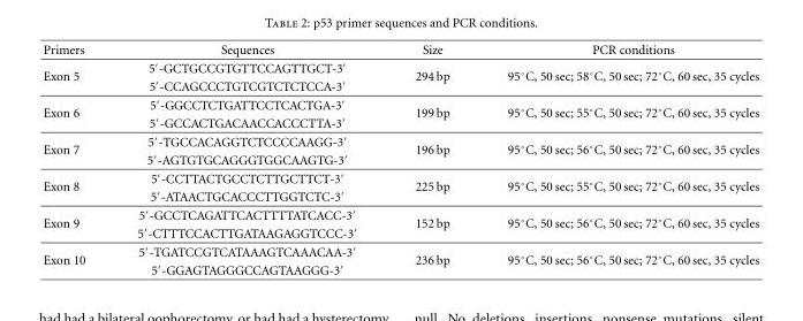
<table><thead><tr><td>Primers</td><td>Sequences</td><td>Size</td><td>PCR conditions</td></tr></thead><tbody><tr><td rowspan="2">Exon 5</td><td>5′-GCTGCCGTGTTCCAGTTGCT-3′</td><td rowspan="2">294 bp</td><td rowspan="2">95◦C, 50 sec; 58◦C, 50 sec; 72◦C, 60 sec, 35 cycles</td></tr><tr><td>5′-CCAGCCCTGTCGTCTCTCCA-3′</td></tr><tr><td rowspan="2">Exon 6</td><td>5′-GGCCTCTGATTCCTCACTGA-3′</td><td rowspan="2">199 bp</td><td rowspan="2">95◦C, 50 sec; 55◦C, 50 sec; 72◦C, 60 sec, 35 cycles</td></tr><tr><td>5′-GCCACTGACAACCACCCTTA-3′</td></tr><tr><td rowspan="2">Exon 7</td><td>5′-TGCCACAGGTCTCCCCAAGG-3′</td><td rowspan="2">196 bp</td><td rowspan="2">95◦C, 50 sec; 56◦C, 50 sec; 72◦C, 60 sec, 35 cycles</td></tr><tr><td>5′-AGTGTGCAGGGTGGCAAGTG-3′</td></tr><tr><td rowspan="2">Exon 8</td><td>5′-CCTTACTGCCTCTTGCTTCT-3′</td><td rowspan="2">225 bp</td><td rowspan="2">95◦C, 50 sec; 55◦C, 50 sec; 72◦C, 60 sec, 35 cycles</td></tr><tr><td>5′-ATAACTGCACCCTTGGTCTC-3′</td></tr><tr><td rowspan="2">Exon 9</td><td>5′-GCCTCAGATTCACTTTTATCACC-3′</td><td rowspan="2">152 bp</td><td rowspan="2">95◦C, 50 sec; 56◦C, 50 sec; 72◦C, 60 sec, 35 cycles</td></tr><tr><td>5′-CTTTCCACTTGATAAGAGGTCCC-3′</td></tr><tr><td rowspan="2">Exon 10</td><td>5′-TGATCCGTCATAAAGTCAAACAA-3′</td><td rowspan="2">236 bp</td><td rowspan="2">95◦C, 50 sec; 56◦C, 50 sec; 72◦C, 60 sec, 35 cycles</td></tr><tr><td>5′-GGAGTAGGGCCAGTAAGGG-3′</td></tr></tbody></table>